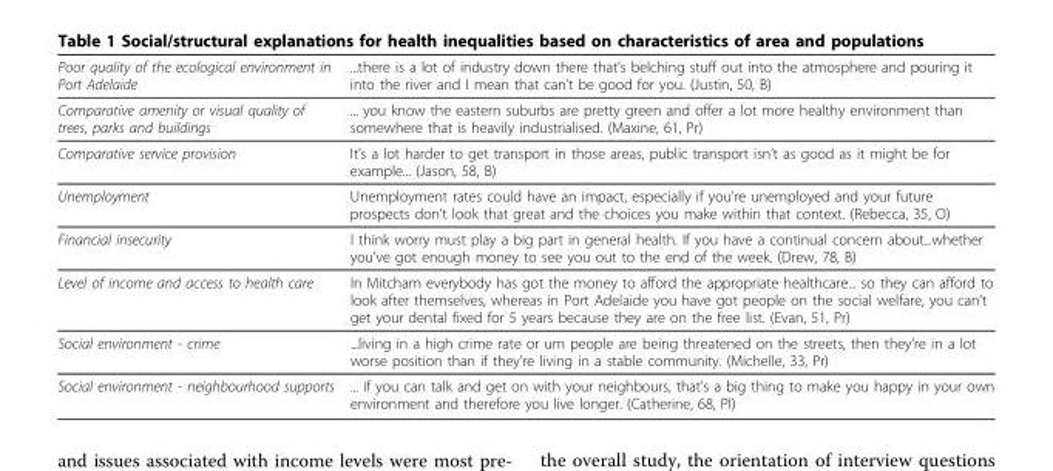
<table><thead><tr><td>Poor quality of the ecological environment in Port Adelaide</td><td>...there is a lot of industry down there that’s belching stuff out into the atmosphere and pouring it into the river and I mean that can’t be good for you. (Justin, 50, B)</td></tr></thead><tbody><tr><td>Comparative amenity or visual quality of trees, parks and buildings</td><td>... you know the eastern suburbs are pretty green and offer a lot more healthy environment than somewhere that is heavily industrialised. (Maxine, 61, Pr)</td></tr><tr><td>Comparative service provision</td><td>It’s a lot harder to get transport in those areas, public transport isn’t as good as it might be for example... (Jason, 58, B)</td></tr><tr><td>Unemployment</td><td>Unemployment rates could have an impact, especially if you’re unemployed and your future prospects don’t look that great and the choices you make within that context. (Rebecca, 35, O)</td></tr><tr><td>Financial insecurity</td><td>I think worry must play a big part in general health. If you have a continual concern about...whether you’ve got enough money to see you out to the end of the week. (Drew, 78, B)</td></tr><tr><td>Level of income and access to health care</td><td>In Mitcham everybody has got the money to afford the appropriate healthcare... so they can afford to look after themselves, whereas in Port Adelaide you have got people on the social welfare, you can’t get your dental fixed for 5 years because they are on the free list. (Evan, 51, Pr)</td></tr><tr><td>Social environment - crime</td><td>...living in a high crime rate or um people are being threatened on the streets, then they’re in a lot worse position than if they’re living in a stable community. (Michelle, 33, Pr)</td></tr><tr><td>Social environment - neighbourhood supports</td><td>... if you can talk and get on with your neighbours, that’s a big thing to make you happy in your own environment and therefore you live longer. (Catherine, 68, Pl)</td></tr></tbody></table>